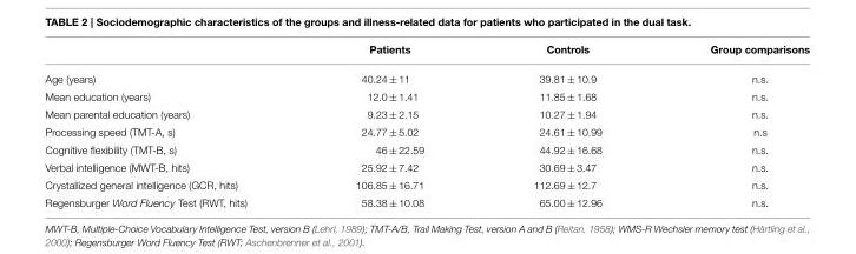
<table><thead><tr><td></td><td>Patients</td><td>Controls</td><td>Group comparisons</td></tr></thead><tbody><tr><td>Age (years)</td><td>40.24 ± 11</td><td>39.81 ± 10.9</td><td>n.s.</td></tr><tr><td>Mean education (years)</td><td>12.0 ± 1.41</td><td>11.85 ± 1.68</td><td>n.s.</td></tr><tr><td>Mean parental education (years)</td><td>9.23 ± 2.15</td><td>10.27 ± 1.94</td><td>n.s.</td></tr><tr><td>Processing speed (TMT-A, s)</td><td>24.77 ± 5.02</td><td>24.61 ± 10.99</td><td>n.s</td></tr><tr><td>Cognitive flexibility (TMT-B, s)</td><td>46 ± 22.59</td><td>44.92 ± 16.68</td><td>n.s.</td></tr><tr><td>Verbal intelligence (MWT-B, hits)</td><td>25.92 ± 7.42</td><td>30.69 ± 3.47</td><td>n.s.</td></tr><tr><td>Crystallized general intelligence (GCR, hits)</td><td>106.85 ± 16.71</td><td>112.69 ± 12.7</td><td>n.s.</td></tr><tr><td>Regensburger Word Fluency Test (RWT, hits)</td><td>58.38 ± 10.08</td><td>65.00 ± 12.96</td><td>n.s.</td></tr></tbody></table>